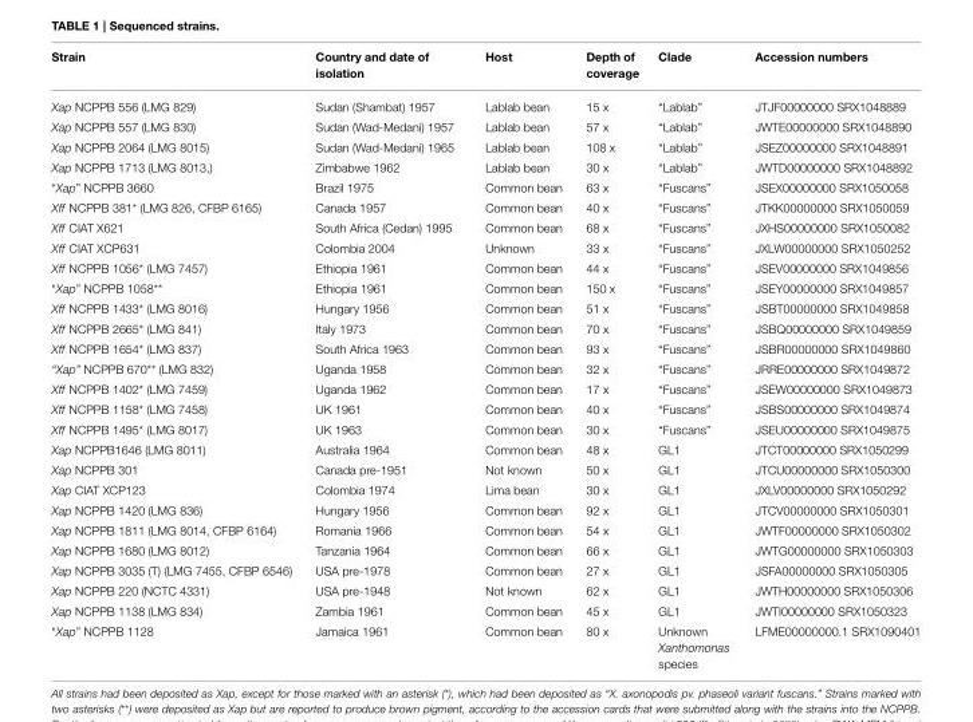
<table><thead><tr><td>Strain</td><td>Country and date of isolation</td><td>Host</td><td>Depth of coverage</td><td>Clade</td><td>Accession numbers</td></tr></thead><tbody><tr><td>Xap NCPPB 556 (LMG 829)</td><td>Sudan (Shambat) 1957</td><td>Lablab bean</td><td>15 x</td><td>“Lablab”</td><td>JTJF00000000 SRX1048889</td></tr><tr><td>Xap NCPPB 557 (LMG 830)</td><td>Sudan (Wad-Medani) 1957</td><td>Lablab bean</td><td>57 x</td><td>“Lablab”</td><td>JWTE00000000 SRX1048890</td></tr><tr><td>Xap NCPPB 2064 (LMG 8015)</td><td>Sudan (Wad-Medani) 1965</td><td>Lablab bean</td><td>108 x</td><td>“Lablab”</td><td>JSEZ00000000 SRX1048891</td></tr><tr><td>Xap NCPPB 1713 (LMG 8013,)</td><td>Zimbabwe 1962</td><td>Lablab bean</td><td>30 x</td><td>“Lablab”</td><td>JWTD00000000 SRX1048892</td></tr><tr><td>“Xap” NCPPB 3660</td><td>Brazil 1975</td><td>Common bean</td><td>63 x</td><td>“Fuscans”</td><td>JSEX00000000 SRX1050058</td></tr><tr><td>Xff NCPPB 381* (LMG 826, CFBP 6165)</td><td>Canada 1957</td><td>Common bean</td><td>40 x</td><td>“Fuscans”</td><td>JTKK00000000 SRX1050059</td></tr><tr><td>Xff CIAT X621</td><td>South Africa (Cedan) 1995</td><td>Common bean</td><td>68 x</td><td>“Fuscans”</td><td>JXHS00000000 SRX1050082</td></tr><tr><td>Xff CIAT XCP631</td><td>Colombia 2004</td><td>Unknown</td><td>33 x</td><td>“Fuscans”</td><td>JXLW00000000 SRX1050252</td></tr><tr><td>Xff NCPPB 1056* (LMG 7457)</td><td>Ethiopia 1961</td><td>Common bean</td><td>44 x</td><td>“Fuscans”</td><td>JSEV00000000 SRX1049856</td></tr><tr><td>“Xap” NCPPB 1058**</td><td>Ethiopia 1961</td><td>Common bean</td><td>150 x</td><td>“Fuscans”</td><td>JSEY00000000 SRX1049857</td></tr><tr><td>Xff NCPPB 1433* (LMG 8016)</td><td>Hungary 1956</td><td>Common bean</td><td>51 x</td><td>“Fuscans”</td><td>JSBT00000000 SRX1049858</td></tr><tr><td>Xff NCPPB 2665* (LMG 841)</td><td>Italy 1973</td><td>Common bean</td><td>70 x</td><td>“Fuscans”</td><td>JSBQ00000000 SRX1049859</td></tr><tr><td>Xff NCPPB 1654* (LMG 837)</td><td>South Africa 1963</td><td>Common bean</td><td>93 x</td><td>“Fuscans”</td><td>JSBR00000000 SRX1049860</td></tr><tr><td>“Xap” NCPPB 670** (LMG 832)</td><td>Uganda 1958</td><td>Common bean</td><td>32 x</td><td>“Fuscans”</td><td>JRRE00000000 SRX1049872</td></tr><tr><td>Xff NCPPB 1402* (LMG 7459)</td><td>Uganda 1962</td><td>Common bean</td><td>17 x</td><td>“Fuscans”</td><td>JSEW00000000 SRX1049873</td></tr><tr><td>Xff NCPPB 1158* (LMG 7458)</td><td>UK 1961</td><td>Common bean</td><td>40 x</td><td>“Fuscans”</td><td>JSBS00000000 SRX1049874</td></tr><tr><td>Xff NCPPB 1495* (LMG 8017)</td><td>UK 1963</td><td>Common bean</td><td>30 x</td><td>“Fuscans”</td><td>JSEU00000000 SRX1049875</td></tr><tr><td>Xap NCPPB1646 (LMG 8011)</td><td>Australia 1964</td><td>Common bean</td><td>48 x</td><td>GL1</td><td>JTCT00000000 SRX1050299</td></tr><tr><td>Xap NCPPB 301</td><td>Canada pre-1951</td><td>Not known</td><td>50 x</td><td>GL1</td><td>JTCU00000000 SRX1050300</td></tr><tr><td>Xap CIAT XCP123</td><td>Colombia 1974</td><td>Lima bean</td><td>30 x</td><td>GL1</td><td>JXLV00000000 SRX1050292</td></tr><tr><td>Xap NCPPB 1420 (LMG 836)</td><td>Hungary 1956</td><td>Common bean</td><td>92 x</td><td>GL1</td><td>JTCV00000000 SRX1050301</td></tr><tr><td>Xap NCPPB 1811 (LMG 8014, CFBP 6164)</td><td>Romania 1966</td><td>Common bean</td><td>54 x</td><td>GL1</td><td>JWTF00000000 SRX1050302</td></tr><tr><td>Xap NCPPB 1680 (LMG 8012)</td><td>Tanzania 1964</td><td>Common bean</td><td>66 x</td><td>GL1</td><td>JWTG00000000 SRX1050303</td></tr><tr><td>Xap NCPPB 3035 (T) (LMG 7455, CFBP 6546)</td><td>USA pre-1978</td><td>Common bean</td><td>27 x</td><td>GL1</td><td>JSFA00000000 SRX1050305</td></tr><tr><td>Xap NCPPB 220 (NCTC 4331)</td><td>USA pre-1948</td><td>Not known</td><td>62 x</td><td>GL1</td><td>JWTH00000000 SRX1050306</td></tr><tr><td>Xap NCPPB 1138 (LMG 834)</td><td>Zambia 1961</td><td>Common bean</td><td>45 x</td><td>GL1</td><td>JWTI00000000 SRX1050323</td></tr><tr><td>“Xap” NCPPB 1128</td><td>Jamaica 1961</td><td>Common bean</td><td>80 x</td><td>Unknown Xanthomonas species</td><td>LFME00000000.1 SRX1090401</td></tr></tbody></table>